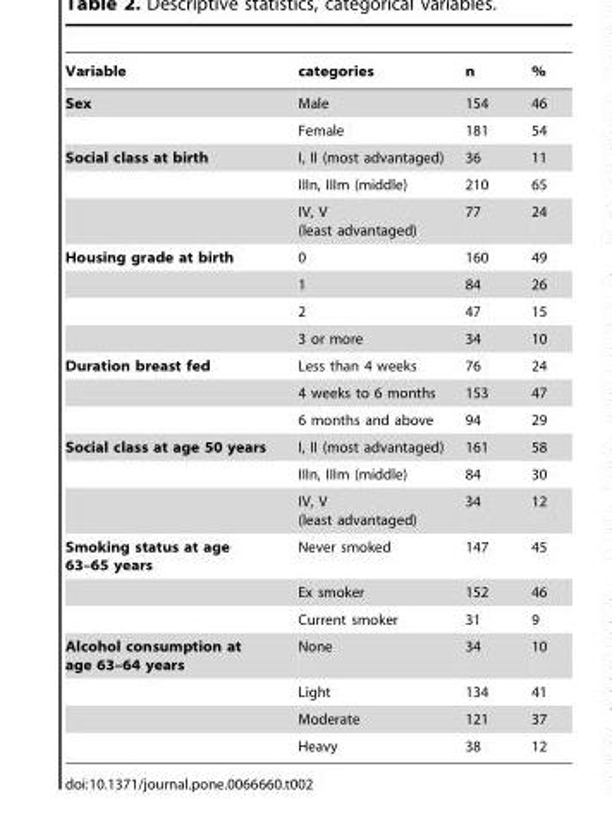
<table><thead><tr><td>Variable</td><td>categories</td><td>n</td><td>%</td></tr></thead><tbody><tr><td rowspan="2">Sex</td><td>Male</td><td>154</td><td>46</td></tr><tr><td>Female</td><td>181</td><td>54</td></tr><tr><td rowspan="3">Social class at birth</td><td>I, II (most advantaged)</td><td>36</td><td>11</td></tr><tr><td>IIIn, IIIm (middle)</td><td>210</td><td>65</td></tr><tr><td>IV, V (least advantaged)</td><td>77</td><td>24</td></tr><tr><td rowspan="4">Housing grade at birth</td><td>0</td><td>160</td><td>49</td></tr><tr><td>1</td><td>84</td><td>26</td></tr><tr><td>2</td><td>47</td><td>15</td></tr><tr><td>3 or more</td><td>34</td><td>10</td></tr><tr><td rowspan="3">Duration breast fed</td><td>Less than 4 weeks</td><td>76</td><td>24</td></tr><tr><td>4 weeks to 6 months</td><td>153</td><td>47</td></tr><tr><td>6 months and above</td><td>94</td><td>29</td></tr><tr><td rowspan="3">Social class at age 50 years</td><td>I, II (most advantaged)</td><td>161</td><td>58</td></tr><tr><td>IIIn, IIIm (middle)</td><td>84</td><td>30</td></tr><tr><td>IV, V (least advantaged)</td><td>34</td><td>12</td></tr><tr><td rowspan="3">Smoking status at age 63–65 years</td><td>Never smoked</td><td>147</td><td>45</td></tr><tr><td>Ex smoker</td><td>152</td><td>46</td></tr><tr><td>Current smoker</td><td>31</td><td>9</td></tr><tr><td rowspan="4">Alcohol consumption at age 63–64 years</td><td>None</td><td>34</td><td>10</td></tr><tr><td>Light</td><td>134</td><td>41</td></tr><tr><td>Moderate</td><td>121</td><td>37</td></tr><tr><td>Heavy</td><td>38</td><td>12</td></tr></tbody></table>